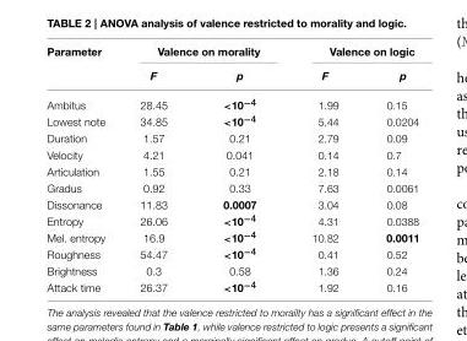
<table><thead><tr><td rowspan="2">Parameter</td><td colspan="2">Valence on morality</td><td colspan="2">Valence on logic</td></tr><tr><td>F</td><td>p</td><td>F</td><td>p</td></tr></thead><tbody><tr><td>Ambitus</td><td>28.45</td><td>&lt;10<sup>−4</sup></td><td>1.99</td><td>0.15</td></tr><tr><td>Lowest note</td><td>34.85</td><td>&lt;10<sup>−4</sup></td><td>5.44</td><td>0.0204</td></tr><tr><td>Duration</td><td>1.57</td><td>0.21</td><td>2.79</td><td>0.09</td></tr><tr><td>Velocity</td><td>4.21</td><td>0.041</td><td>0.14</td><td>0.7</td></tr><tr><td>Articulation</td><td>1.55</td><td>0.21</td><td>2.18</td><td>0.14</td></tr><tr><td>Gradus</td><td>0.92</td><td>0.33</td><td>7.63</td><td>0.0061</td></tr><tr><td>Dissonance</td><td>11.83</td><td>0.0007</td><td>3.04</td><td>0.08</td></tr><tr><td>Entropy</td><td>26.06</td><td>&lt;10<sup>−4</sup></td><td>4.31</td><td>0.0388</td></tr><tr><td>Mel. entropy</td><td>16.9</td><td>&lt;10<sup>−4</sup></td><td>10.82</td><td>0.0011</td></tr><tr><td>Roughness</td><td>54.47</td><td>&lt;10<sup>−4</sup></td><td>0.41</td><td>0.52</td></tr><tr><td>Brightness</td><td>0.3</td><td>0.58</td><td>1.36</td><td>0.24</td></tr><tr><td>Attack time</td><td>26.37</td><td>&lt;10<sup>−4</sup></td><td>1.92</td><td>0.16</td></tr></tbody></table>